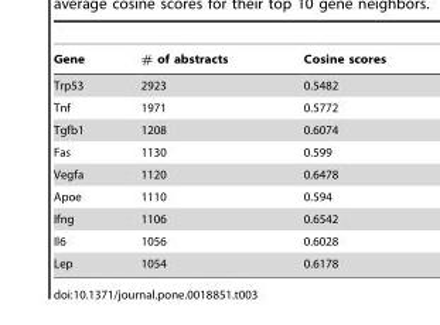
<table><thead><tr><td>Gene</td><td># of abstracts</td><td>Cosine scores</td></tr></thead><tbody><tr><td>Trp53</td><td>2923</td><td>0.5482</td></tr><tr><td>Tnf</td><td>1971</td><td>0.5772</td></tr><tr><td>Tgfb1</td><td>1208</td><td>0.6074</td></tr><tr><td>Fas</td><td>1130</td><td>0.599</td></tr><tr><td>Vegfa</td><td>1120</td><td>0.6478</td></tr><tr><td>Apoe</td><td>1110</td><td>0.594</td></tr><tr><td>Ifng</td><td>1106</td><td>0.6542</td></tr><tr><td>Il6</td><td>1056</td><td>0.6028</td></tr><tr><td>Lep</td><td>1054</td><td>0.6178</td></tr></tbody></table>